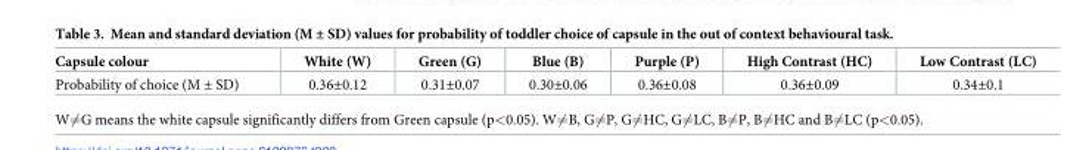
<table><thead><tr><td>Capsule colour</td><td>White (W)</td><td>Green (G)</td><td>Blue (B)</td><td>Purple (P)</td><td>High Contrast (HC)</td><td>Low Contrast (LC)</td></tr></thead><tbody><tr><td>Probability of choice (M ± SD)</td><td>0.36±0.12</td><td>0.31±0.07</td><td>0.30±0.06</td><td>0.36±0.08</td><td>0.36±0.09</td><td>0.34±0.1</td></tr></tbody></table>